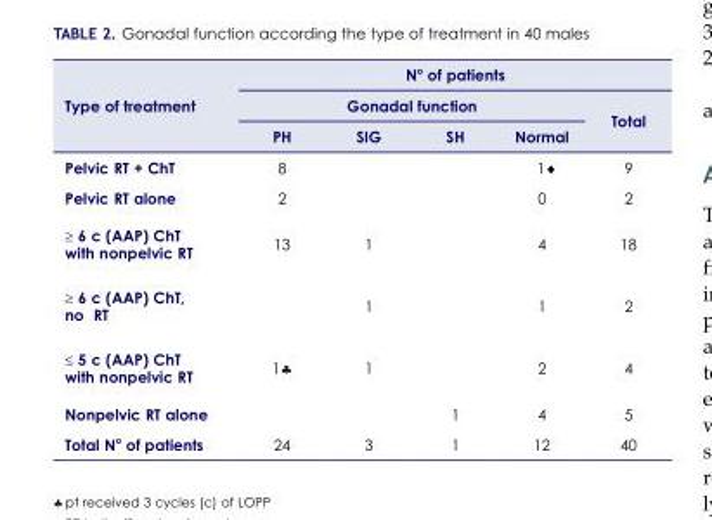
<table><thead><tr><td rowspan="3">Type of treatment</td><td colspan="5">N° of patients</td></tr><tr><td colspan="4">Gonadal function</td><td rowspan="2">Total</td></tr><tr><td>PH</td><td>SIG</td><td>SH</td><td>Normal</td></tr></thead><tbody><tr><td>Pelvic RT + ChT</td><td>8</td><td></td><td></td><td>1♦</td><td>9</td></tr><tr><td>Pelvic RT alone</td><td>2</td><td></td><td></td><td>0</td><td>2</td></tr><tr><td>≥ 6 c (AAP) ChT with nonpelvic RT</td><td>13</td><td>1</td><td></td><td>4</td><td>18</td></tr><tr><td>≥ 6 c (AAP) ChT, no RT</td><td></td><td>1</td><td></td><td>1</td><td>2</td></tr><tr><td>≤ 5 c (AAP) ChT with nonpelvic RT</td><td>1♣</td><td>1</td><td></td><td>2</td><td>4</td></tr><tr><td>Nonpelvic RT alone</td><td></td><td></td><td>1</td><td>4</td><td>5</td></tr><tr><td>Total N° of patients</td><td>24</td><td>3</td><td>1</td><td>12</td><td>40</td></tr></tbody></table>